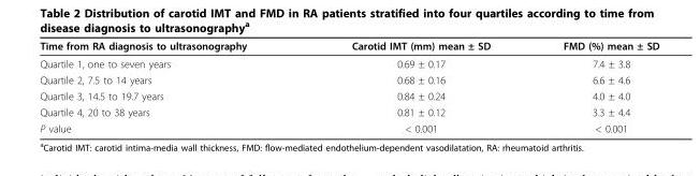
<table><thead><tr><td>Time from RA diagnosis to ultrasonography</td><td>Carotid IMT (mm) mean ± SD</td><td>FMD (%) mean ± SD</td></tr></thead><tbody><tr><td>Quartile 1, one to seven years</td><td>0.69 ± 0.17</td><td>7.4 ± 3.8</td></tr><tr><td>Quartile 2, 7.5 to 14 years</td><td>0.68 ± 0.16</td><td>6.6 ± 4.6</td></tr><tr><td>Quartile 3, 14.5 to 19.7 years</td><td>0.84 ± 0.24</td><td>4.0 ± 4.0</td></tr><tr><td>Quartile 4, 20 to 38 years</td><td>0.81 ± 0.12</td><td>3.3 ± 4.4</td></tr><tr><td>P value</td><td>&lt; 0.001</td><td>&lt; 0.001</td></tr></tbody></table>